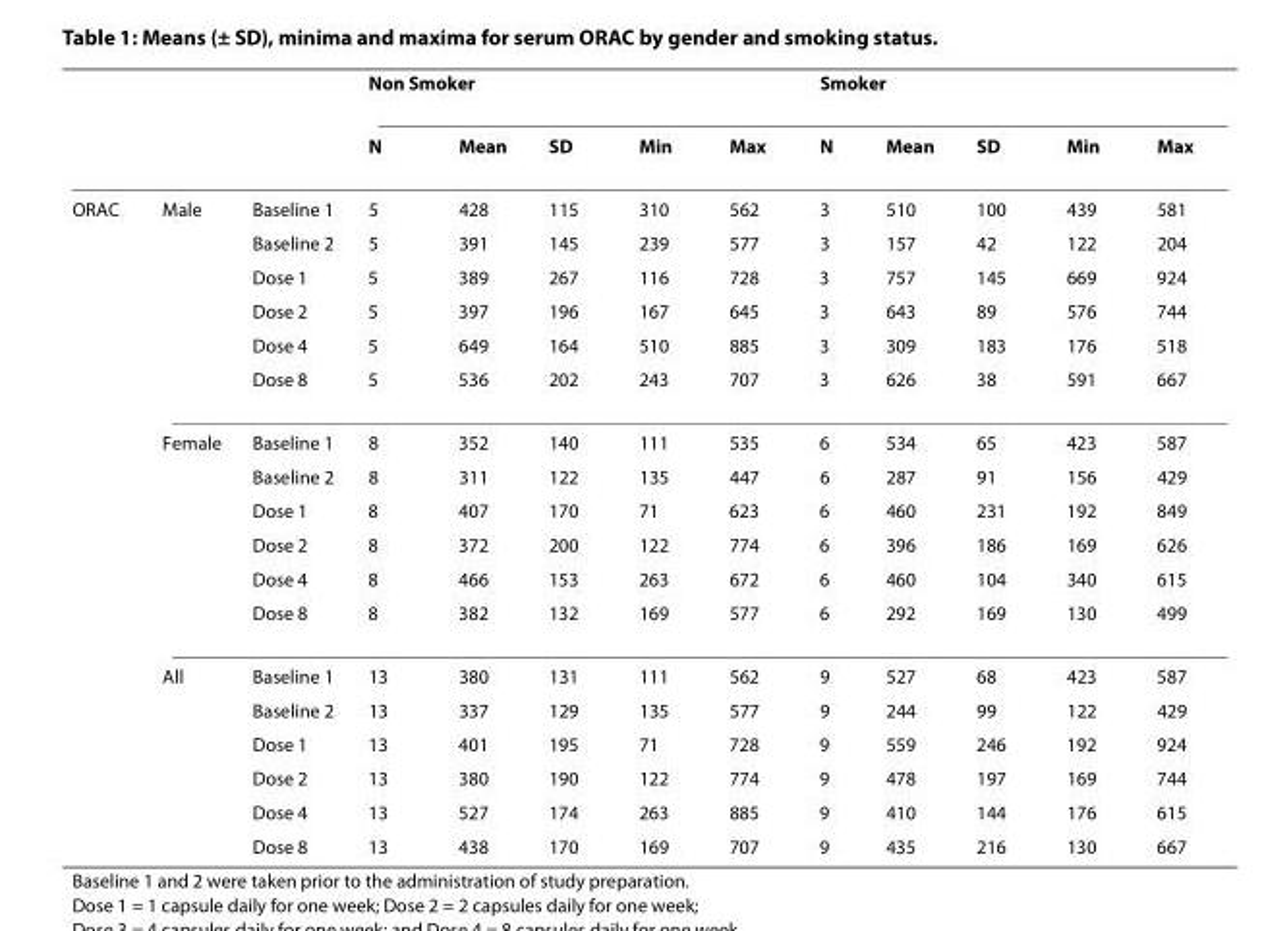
<table><thead><tr><td rowspan="2"></td><td rowspan="2"></td><td rowspan="2"></td><td colspan="5">Non Smoker</td><td colspan="5">Smoker</td></tr><tr><td>N</td><td>Mean</td><td>SD</td><td>Min</td><td>Max</td><td>N</td><td>Mean</td><td>SD</td><td>Min</td><td>Max</td></tr></thead><tbody><tr><td rowspan="18">ORAC</td><td>Male</td><td>Baseline 1</td><td>5</td><td>428</td><td>115</td><td>310</td><td>562</td><td>3</td><td>510</td><td>100</td><td>439</td><td>581</td></tr><tr><td></td><td>Baseline 2</td><td>5</td><td>391</td><td>145</td><td>239</td><td>577</td><td>3</td><td>157</td><td>42</td><td>122</td><td>204</td></tr><tr><td></td><td>Dose 1</td><td>5</td><td>389</td><td>267</td><td>116</td><td>728</td><td>3</td><td>757</td><td>145</td><td>669</td><td>924</td></tr><tr><td></td><td>Dose 2</td><td>5</td><td>397</td><td>196</td><td>167</td><td>645</td><td>3</td><td>643</td><td>89</td><td>576</td><td>744</td></tr><tr><td></td><td>Dose 4</td><td>5</td><td>649</td><td>164</td><td>510</td><td>885</td><td>3</td><td>309</td><td>183</td><td>176</td><td>518</td></tr><tr><td></td><td>Dose 8</td><td>5</td><td>536</td><td>202</td><td>243</td><td>707</td><td>3</td><td>626</td><td>38</td><td>591</td><td>667</td></tr><tr><td>Female</td><td>Baseline 1</td><td>8</td><td>352</td><td>140</td><td>111</td><td>535</td><td>6</td><td>534</td><td>65</td><td>423</td><td>587</td></tr><tr><td></td><td>Baseline 2</td><td>8</td><td>311</td><td>122</td><td>135</td><td>447</td><td>6</td><td>287</td><td>91</td><td>156</td><td>429</td></tr><tr><td></td><td>Dose 1</td><td>8</td><td>407</td><td>170</td><td>71</td><td>623</td><td>6</td><td>460</td><td>231</td><td>192</td><td>849</td></tr><tr><td></td><td>Dose 2</td><td>8</td><td>372</td><td>200</td><td>122</td><td>774</td><td>6</td><td>396</td><td>186</td><td>169</td><td>626</td></tr><tr><td></td><td>Dose 4</td><td>8</td><td>466</td><td>153</td><td>263</td><td>672</td><td>6</td><td>460</td><td>104</td><td>340</td><td>615</td></tr><tr><td></td><td>Dose 8</td><td>8</td><td>382</td><td>132</td><td>169</td><td>577</td><td>6</td><td>292</td><td>169</td><td>130</td><td>499</td></tr><tr><td>All</td><td>Baseline 1</td><td>13</td><td>380</td><td>131</td><td>111</td><td>562</td><td>9</td><td>527</td><td>68</td><td>423</td><td>587</td></tr><tr><td></td><td>Baseline 2</td><td>13</td><td>337</td><td>129</td><td>135</td><td>577</td><td>9</td><td>244</td><td>99</td><td>122</td><td>429</td></tr><tr><td></td><td>Dose 1</td><td>13</td><td>401</td><td>195</td><td>71</td><td>728</td><td>9</td><td>559</td><td>246</td><td>192</td><td>924</td></tr><tr><td></td><td>Dose 2</td><td>13</td><td>380</td><td>190</td><td>122</td><td>774</td><td>9</td><td>478</td><td>197</td><td>169</td><td>744</td></tr><tr><td></td><td>Dose 4</td><td>13</td><td>527</td><td>174</td><td>263</td><td>885</td><td>9</td><td>410</td><td>144</td><td>176</td><td>615</td></tr><tr><td></td><td>Dose 8</td><td>13</td><td>438</td><td>170</td><td>169</td><td>707</td><td>9</td><td>435</td><td>216</td><td>130</td><td>667</td></tr></tbody></table>